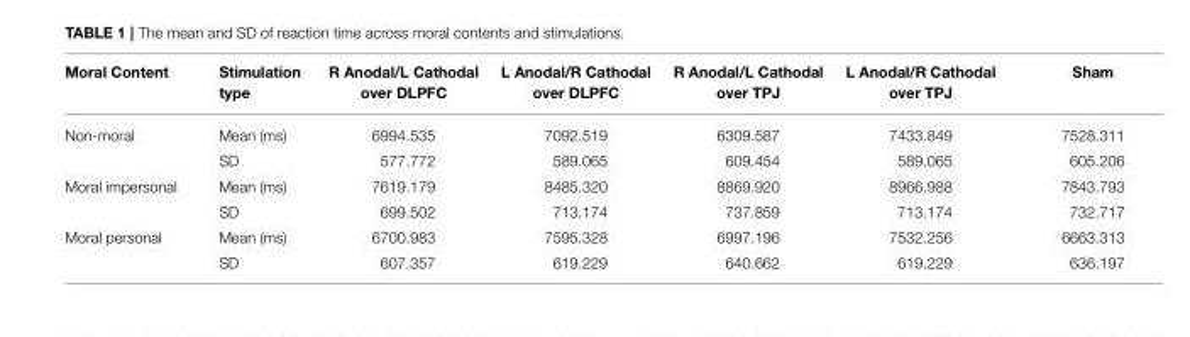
<table><thead><tr><td>Moral Content</td><td>Stimulation type</td><td>R Anodal/L Cathodal over DLPFC</td><td>L Anodal/R Cathodal over DLPFC</td><td>R Anodal/L Cathodal over TPJ</td><td>L Anodal/R Cathodal over TPJ</td><td>Sham</td></tr></thead><tbody><tr><td rowspan="2">Non-moral</td><td>Mean (ms)</td><td>6994.535</td><td>7092.519</td><td>6309.587</td><td>7433.849</td><td>7528.311</td></tr><tr><td>SD</td><td>577.772</td><td>589.065</td><td>609.454</td><td>589.065</td><td>605.206</td></tr><tr><td rowspan="2">Moral impersonal</td><td>Mean (ms)</td><td>7619.179</td><td>8485.320</td><td>8869.920</td><td>8966.988</td><td>7843.793</td></tr><tr><td>SD</td><td>699.502</td><td>713.174</td><td>737.859</td><td>713.174</td><td>732.717</td></tr><tr><td rowspan="2">Moral personal</td><td>Mean (ms)</td><td>6700.983</td><td>7595.328</td><td>6997.196</td><td>7532.256</td><td>6663.313</td></tr><tr><td>SD</td><td>607.357</td><td>619.229</td><td>640.662</td><td>619.229</td><td>636.197</td></tr></tbody></table>